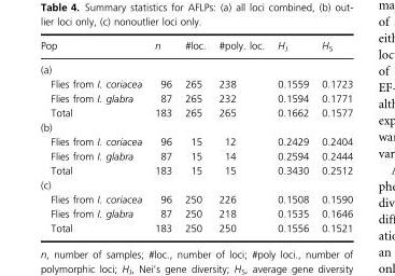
<table><thead><tr><td>Pop</td><td>n</td><td>#loc.</td><td>#poly. loc.</td><td>H<sub>J</sub></td><td>H<sub>S</sub></td></tr></thead><tbody><tr><td colspan="6">(a)</td></tr><tr><td>Flies from I. coriacea</td><td>96</td><td>265</td><td>238</td><td>0.1559</td><td>0.1723</td></tr><tr><td>Flies from I. glabra</td><td>87</td><td>265</td><td>232</td><td>0.1594</td><td>0.1771</td></tr><tr><td>Total</td><td>183</td><td>265</td><td>265</td><td>0.1662</td><td>0.1577</td></tr><tr><td colspan="6">(b)</td></tr><tr><td>Flies from I. coriacea</td><td>96</td><td>15</td><td>12</td><td>0.2429</td><td>0.2404</td></tr><tr><td>Flies from I. glabra</td><td>87</td><td>15</td><td>14</td><td>0.2594</td><td>0.2444</td></tr><tr><td>Total</td><td>183</td><td>15</td><td>15</td><td>0.3430</td><td>0.2512</td></tr><tr><td colspan="6">(c)</td></tr><tr><td>Flies from I. coriacea</td><td>96</td><td>250</td><td>226</td><td>0.1508</td><td>0.1590</td></tr><tr><td>Flies from I. glabra</td><td>87</td><td>250</td><td>218</td><td>0.1535</td><td>0.1646</td></tr><tr><td>Total</td><td>183</td><td>250</td><td>250</td><td>0.1556</td><td>0.1521</td></tr></tbody></table>